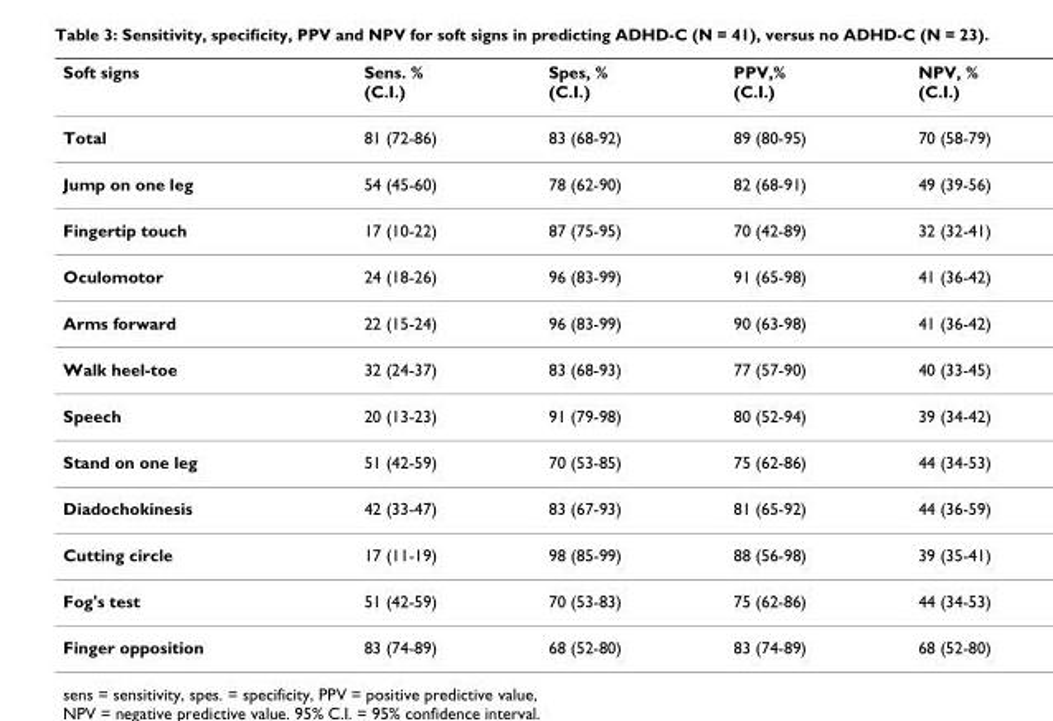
<table><thead><tr><td>Soft signs</td><td>Sens. % (C.I.)</td><td>Spes, % (C.I.)</td><td>PPV,% (C.I.)</td><td>NPV, % (C.I.)</td></tr></thead><tbody><tr><td>Total</td><td>81 (72-86)</td><td>83 (68-92)</td><td>89 (80-95)</td><td>70 (58-79)</td></tr><tr><td>Jump on one leg</td><td>54 (45-60)</td><td>78 (62-90)</td><td>82 (68-91)</td><td>49 (39-56)</td></tr><tr><td>Fingertip touch</td><td>17 (10-22)</td><td>87 (75-95)</td><td>70 (42-89)</td><td>32 (32-41)</td></tr><tr><td>Oculomotor</td><td>24 (18-26)</td><td>96 (83-99)</td><td>91 (65-98)</td><td>41 (36-42)</td></tr><tr><td>Arms forward</td><td>22 (15-24)</td><td>96 (83-99)</td><td>90 (63-98)</td><td>41 (36-42)</td></tr><tr><td>Walk heel-toe</td><td>32 (24-37)</td><td>83 (68-93)</td><td>77 (57-90)</td><td>40 (33-45)</td></tr><tr><td>Speech</td><td>20 (13-23)</td><td>91 (79-98)</td><td>80 (52-94)</td><td>39 (34-42)</td></tr><tr><td>Stand on one leg</td><td>51 (42-59)</td><td>70 (53-85)</td><td>75 (62-86)</td><td>44 (34-53)</td></tr><tr><td>Diadochokinesis</td><td>42 (33-47)</td><td>83 (67-93)</td><td>81 (65-92)</td><td>44 (36-59)</td></tr><tr><td>Cutting circle</td><td>17 (11-19)</td><td>98 (85-99)</td><td>88 (56-98)</td><td>39 (35-41)</td></tr><tr><td>Fog&#x27;s test</td><td>51 (42-59)</td><td>70 (53-83)</td><td>75 (62-86)</td><td>44 (34-53)</td></tr><tr><td>Finger opposition</td><td>83 (74-89)</td><td>68 (52-80)</td><td>83 (74-89)</td><td>68 (52-80)</td></tr></tbody></table>